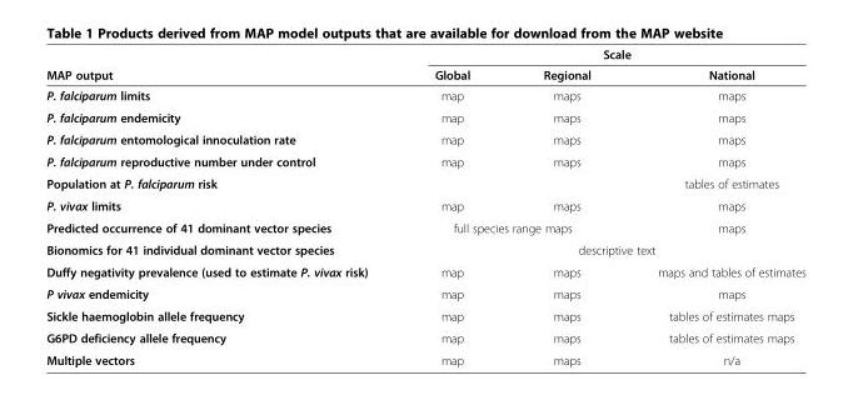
<table><thead><tr><td rowspan="2">MAP output</td><td colspan="3">Scale</td></tr><tr><td>Global</td><td>Regional</td><td>National</td></tr></thead><tbody><tr><td>P. falciparum limits</td><td>map</td><td>maps</td><td>maps</td></tr><tr><td>P. falciparum endemicity</td><td>map</td><td>maps</td><td>maps</td></tr><tr><td>P. falciparum entomological innoculation rate</td><td>map</td><td>maps</td><td>maps</td></tr><tr><td>P. falciparum reproductive number under control</td><td>map</td><td>maps</td><td>maps</td></tr><tr><td>Population at P. falciparum risk</td><td></td><td></td><td>tables of estimates</td></tr><tr><td>P. vivax limits</td><td>map</td><td>maps</td><td>maps</td></tr><tr><td>Predicted occurrence of 41 dominant vector species</td><td colspan="2">full species range maps</td><td>maps</td></tr><tr><td>Bionomics for 41 individual dominant vector species</td><td colspan="3">descriptive text</td></tr><tr><td>Duffy negativity prevalence (used to estimate P. vivax risk)</td><td>map</td><td>maps</td><td>maps and tables of estimates</td></tr><tr><td>P vivax endemicity</td><td>map</td><td>maps</td><td>maps</td></tr><tr><td>Sickle haemoglobin allele frequency</td><td>map</td><td>maps</td><td>tables of estimates maps</td></tr><tr><td>G6PD deficiency allele frequency</td><td>map</td><td>maps</td><td>tables of estimates maps</td></tr><tr><td>Multiple vectors</td><td>map</td><td>maps</td><td>n/a</td></tr></tbody></table>